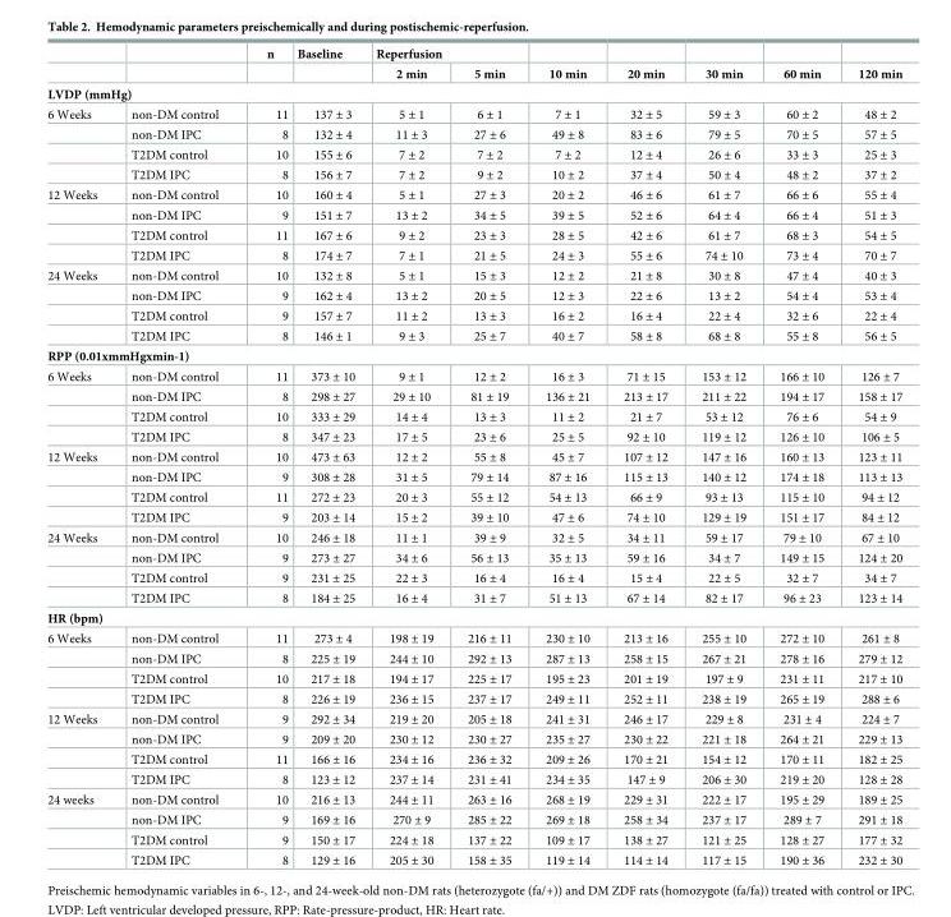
<table><thead><tr><td rowspan="2"></td><td rowspan="2"></td><td rowspan="2">n</td><td rowspan="2">Baseline</td><td colspan="2">Reperfusion</td><td rowspan="2">10 min</td><td rowspan="2">20 min</td><td rowspan="2">30 min</td><td rowspan="2">60 min</td><td rowspan="2">120 min</td></tr><tr><td>2 min</td><td>5 min</td></tr></thead><tbody><tr><td colspan="11">LVDP (mmHg)</td></tr><tr><td rowspan="4">6 Weeks</td><td>non-DM control</td><td>11</td><td>137 ± 3</td><td>5 ± 1</td><td>6 ± 1</td><td>7 ± 1</td><td>32 ± 5</td><td>59 ± 3</td><td>60 ± 2</td><td>48 ± 2</td></tr><tr><td>non-DM IPC</td><td>8</td><td>132 ± 4</td><td>11 ± 3</td><td>27 ± 6</td><td>49 ± 8</td><td>83 ± 6</td><td>79 ± 5</td><td>70 ± 5</td><td>57 ± 5</td></tr><tr><td>T2DM control</td><td>10</td><td>155 ± 6</td><td>7 ± 2</td><td>7 ± 2</td><td>7 ± 2</td><td>12 ± 4</td><td>26 ± 6</td><td>33 ± 3</td><td>25 ± 3</td></tr><tr><td>T2DM IPC</td><td>8</td><td>156 ± 7</td><td>7 ± 2</td><td>9 ± 2</td><td>10 ± 2</td><td>37 ± 4</td><td>50 ± 4</td><td>48 ± 2</td><td>37 ± 2</td></tr><tr><td rowspan="4">12 Weeks</td><td>non-DM control</td><td>10</td><td>160 ± 4</td><td>5 ± 1</td><td>27 ± 3</td><td>20 ± 2</td><td>46 ± 6</td><td>61 ± 7</td><td>66 ± 6</td><td>55 ± 4</td></tr><tr><td>non-DM IPC</td><td>9</td><td>151 ± 7</td><td>13 ± 2</td><td>34 ± 5</td><td>39 ± 5</td><td>52 ± 6</td><td>64 ± 4</td><td>66 ± 4</td><td>51 ± 3</td></tr><tr><td>T2DM control</td><td>11</td><td>167 ± 6</td><td>9 ± 2</td><td>23 ± 3</td><td>28 ± 5</td><td>42 ± 6</td><td>61 ± 7</td><td>68 ± 3</td><td>54 ± 5</td></tr><tr><td>T2DM IPC</td><td>8</td><td>174 ± 7</td><td>7 ± 1</td><td>21 ± 5</td><td>24 ± 3</td><td>55 ± 6</td><td>74 ± 10</td><td>73 ± 4</td><td>70 ± 7</td></tr><tr><td rowspan="4">24 Weeks</td><td>non-DM control</td><td>10</td><td>132 ± 8</td><td>5 ± 1</td><td>15 ± 3</td><td>12 ± 2</td><td>21 ± 8</td><td>30 ± 8</td><td>47 ± 4</td><td>40 ± 3</td></tr><tr><td>non-DM IPC</td><td>9</td><td>162 ± 4</td><td>13 ± 2</td><td>20 ± 5</td><td>12 ± 3</td><td>22 ± 6</td><td>13 ± 2</td><td>54 ± 4</td><td>53 ± 4</td></tr><tr><td>T2DM control</td><td>9</td><td>157 ± 7</td><td>11 ± 2</td><td>13 ± 3</td><td>16 ± 2</td><td>16 ± 4</td><td>22 ± 4</td><td>32 ± 6</td><td>22 ± 4</td></tr><tr><td>T2DM IPC</td><td>8</td><td>146 ± 1</td><td>9 ± 3</td><td>25 ± 7</td><td>40 ± 7</td><td>58 ± 8</td><td>68 ± 8</td><td>55 ± 8</td><td>56 ± 5</td></tr><tr><td colspan="11">RPP (0.01xmmHgxmin-1)</td></tr><tr><td rowspan="4">6 Weeks</td><td>non-DM control</td><td>11</td><td>373 ± 10</td><td>9 ± 1</td><td>12 ± 2</td><td>16 ± 3</td><td>71 ± 15</td><td>153 ± 12</td><td>166 ± 10</td><td>126 ± 7</td></tr><tr><td>non-DM IPC</td><td>8</td><td>298 ± 27</td><td>29 ± 10</td><td>81 ± 19</td><td>136 ± 21</td><td>213 ± 17</td><td>211 ± 22</td><td>194 ± 17</td><td>158 ± 17</td></tr><tr><td>T2DM control</td><td>10</td><td>333 ± 29</td><td>14 ± 4</td><td>13 ± 3</td><td>11 ± 2</td><td>21 ± 7</td><td>53 ± 12</td><td>76 ± 6</td><td>54 ± 9</td></tr><tr><td>T2DM IPC</td><td>8</td><td>347 ± 23</td><td>17 ± 5</td><td>23 ± 6</td><td>25 ± 5</td><td>92 ± 10</td><td>119 ± 12</td><td>126 ± 10</td><td>106 ± 5</td></tr><tr><td rowspan="4">12 Weeks</td><td>non-DM control</td><td>10</td><td>473 ± 63</td><td>12 ± 2</td><td>55 ± 8</td><td>45 ± 7</td><td>107 ± 12</td><td>147 ± 16</td><td>160 ± 13</td><td>123 ± 11</td></tr><tr><td>non-DM IPC</td><td>9</td><td>308 ± 28</td><td>31 ± 5</td><td>79 ± 14</td><td>87 ± 16</td><td>115 ± 13</td><td>140 ± 12</td><td>174 ± 18</td><td>113 ± 13</td></tr><tr><td>T2DM control</td><td>11</td><td>272 ± 23</td><td>20 ± 3</td><td>55 ± 12</td><td>54 ± 13</td><td>66 ± 9</td><td>93 ± 13</td><td>115 ± 10</td><td>94 ± 12</td></tr><tr><td>T2DM IPC</td><td>9</td><td>203 ± 14</td><td>15 ± 2</td><td>39 ± 10</td><td>47 ± 6</td><td>74 ± 10</td><td>129 ± 19</td><td>151 ± 17</td><td>84 ± 12</td></tr><tr><td rowspan="4">24 Weeks</td><td>non-DM control</td><td>10</td><td>246 ± 18</td><td>11 ± 1</td><td>39 ± 9</td><td>32 ± 5</td><td>34 ± 11</td><td>59 ± 17</td><td>79 ± 10</td><td>67 ± 10</td></tr><tr><td>non-DM IPC</td><td>9</td><td>273 ± 27</td><td>34 ± 6</td><td>56 ± 13</td><td>35 ± 13</td><td>59 ± 16</td><td>34 ± 7</td><td>149 ± 15</td><td>124 ± 20</td></tr><tr><td>T2DM control</td><td>9</td><td>231 ± 25</td><td>22 ± 3</td><td>16 ± 4</td><td>16 ± 4</td><td>15 ± 4</td><td>22 ± 5</td><td>32 ± 7</td><td>34 ± 7</td></tr><tr><td>T2DM IPC</td><td>8</td><td>184 ± 25</td><td>16 ± 4</td><td>31 ± 7</td><td>51 ± 13</td><td>67 ± 14</td><td>82 ± 17</td><td>96 ± 23</td><td>123 ± 14</td></tr><tr><td colspan="11">HR (bpm)</td></tr><tr><td rowspan="4">6 Weeks</td><td>non-DM control</td><td>11</td><td>273 ± 4</td><td>198 ± 19</td><td>216 ± 11</td><td>230 ± 10</td><td>213 ± 16</td><td>255 ± 10</td><td>272 ± 10</td><td>261 ± 8</td></tr><tr><td>non-DM IPC</td><td>8</td><td>225 ± 19</td><td>244 ± 10</td><td>292 ± 13</td><td>287 ± 13</td><td>258 ± 15</td><td>267 ± 21</td><td>278 ± 16</td><td>279 ± 12</td></tr><tr><td>T2DM control</td><td>10</td><td>217 ± 18</td><td>194 ± 17</td><td>225 ± 17</td><td>195 ± 23</td><td>201 ± 19</td><td>197 ± 9</td><td>231 ± 11</td><td>217 ± 10</td></tr><tr><td>T2DM IPC</td><td>8</td><td>226 ± 19</td><td>236 ± 15</td><td>237 ± 17</td><td>249 ± 11</td><td>252 ± 11</td><td>238 ± 19</td><td>265 ± 19</td><td>288 ± 6</td></tr><tr><td rowspan="4">12 Weeks</td><td>non-DM control</td><td>9</td><td>292 ± 34</td><td>219 ± 20</td><td>205 ± 18</td><td>241 ± 31</td><td>246 ± 17</td><td>229 ± 8</td><td>231 ± 4</td><td>224 ± 7</td></tr><tr><td>non-DM IPC</td><td>9</td><td>209 ± 20</td><td>230 ± 12</td><td>230 ± 27</td><td>235 ± 27</td><td>230 ± 22</td><td>221 ± 18</td><td>264 ± 21</td><td>229 ± 13</td></tr><tr><td>T2DM control</td><td>11</td><td>166 ± 16</td><td>234 ± 16</td><td>236 ± 32</td><td>209 ± 26</td><td>170 ± 21</td><td>154 ± 12</td><td>170 ± 11</td><td>182 ± 25</td></tr><tr><td>T2DM IPC</td><td>8</td><td>123 ± 12</td><td>237 ± 14</td><td>231 ± 41</td><td>234 ± 35</td><td>147 ± 9</td><td>206 ± 30</td><td>219 ± 20</td><td>128 ± 28</td></tr><tr><td rowspan="4">24 weeks</td><td>non-DM control</td><td>10</td><td>216 ± 13</td><td>244 ± 11</td><td>263 ± 16</td><td>268 ± 19</td><td>229 ± 31</td><td>222 ± 17</td><td>195 ± 29</td><td>189 ± 25</td></tr><tr><td>non-DM IPC</td><td>9</td><td>169 ± 16</td><td>270 ± 9</td><td>285 ± 22</td><td>269 ± 18</td><td>258 ± 34</td><td>237 ± 17</td><td>289 ± 7</td><td>291 ± 18</td></tr><tr><td>T2DM control</td><td>9</td><td>150 ± 17</td><td>224 ± 18</td><td>137 ± 22</td><td>109 ± 17</td><td>138 ± 27</td><td>121 ± 25</td><td>128 ± 27</td><td>177 ± 32</td></tr><tr><td>T2DM IPC</td><td>8</td><td>129 ± 16</td><td>205 ± 30</td><td>158 ± 35</td><td>119 ± 14</td><td>114 ± 14</td><td>117 ± 15</td><td>190 ± 36</td><td>232 ± 30</td></tr></tbody></table>